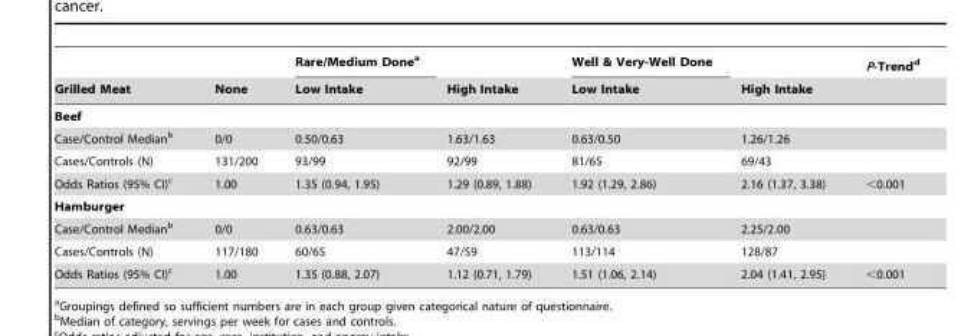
<table><thead><tr><td rowspan="2">Grilled Meat</td><td rowspan="2">None</td><td rowspan="2">Rare/Medium Done<sup>a</sup> Low Intake</td><td rowspan="2">High Intake</td><td rowspan="2">Well &amp; Very-Well Done Low Intake</td><td rowspan="2">High Intake</td><td rowspan="2">P-Trend<sup>d</sup></td></tr><tr></tr></thead><tbody><tr><td colspan="7">Beef</td></tr><tr><td>Case/Control Median<sup>b</sup></td><td>0/0</td><td>0.50/0.63</td><td>1.63/1.63</td><td>0.63/0.50</td><td>1.26/1.26</td><td></td></tr><tr><td>Cases/Controls (N)</td><td>131/200</td><td>93/99</td><td>92/99</td><td>81/65</td><td>69/43</td><td></td></tr><tr><td>Odds Ratios (95% CI)<sup>c</sup></td><td>1.00</td><td>1.35 (0.94, 1.95)</td><td>1.29 (0.89, 1.88)</td><td>1.92 (1.29, 2.86)</td><td>2.16 (1.37, 3.38)</td><td>&lt;0.001</td></tr><tr><td colspan="7">Hamburger</td></tr><tr><td>Case/Control Median<sup>b</sup></td><td>0/0</td><td>0.63/0.63</td><td>2.00/2.00</td><td>0.63/0.63</td><td>2.25/2.00</td><td></td></tr><tr><td>Cases/Controls (N)</td><td>117/180</td><td>60/65</td><td>47/59</td><td>113/114</td><td>128/87</td><td></td></tr><tr><td>Odds Ratios (95% CI)<sup>c</sup></td><td>1.00</td><td>1.35 (0.88, 2.07)</td><td>1.12 (0.71, 1.79)</td><td>1.51 (1.06, 2.14)</td><td>2.04 (1.41, 2.95)</td><td>&lt;0.001</td></tr></tbody></table>